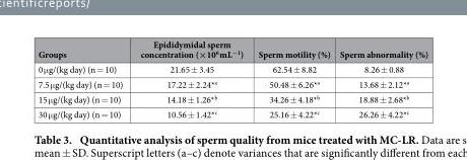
<table><thead><tr><td>Groups</td><td>Epididymidal sperm concentration (×10<sup>6</sup> mL<sup>−1</sup>)</td><td>Sperm motility (%)</td><td>Sperm abnormality (%)</td></tr></thead><tbody><tr><td>0 μ g/(kg day) (n = 10)</td><td>21.65 ± 3.45</td><td>62.54 ± 8.82</td><td>8.26 ± 0.88</td></tr><tr><td>7.5 μ g/(kg day) (n = 10)</td><td>17.22 ± 2.24*<sup>a</sup></td><td>50.48 ± 6.26*<sup>a</sup></td><td>13.68 ± 2.12*<sup>a</sup></td></tr><tr><td>15 μ g/(kg day) (n = 10)</td><td>14.18 ± 1.26*<sup>b</sup></td><td>34.26 ± 4.18*<sup>b</sup></td><td>18.88 ± 2.68*<sup>b</sup></td></tr><tr><td>30 μ g/(kg day) (n = 10)</td><td>10.56 ± 1.42*<sup>c</sup></td><td>25.16 ± 4.22*<sup>c</sup></td><td>26.26 ± 4.22*<sup>c</sup></td></tr></tbody></table>